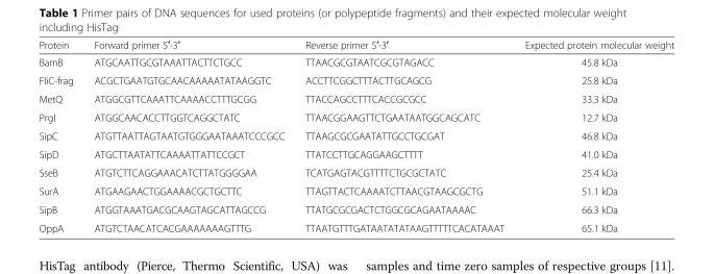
<table><thead><tr><td>Protein</td><td>Forward primer 5′-3′</td><td>Reverse primer 5′-3′</td><td>Expected protein molecular weight</td></tr></thead><tbody><tr><td>BamB</td><td>ATGCAATTGCGTAAATTACTTCTGCC</td><td>TTAACGCGTAATCGCGTAGACC</td><td>45.8 kDa</td></tr><tr><td>FliC-frag</td><td>ACGCTGAATGTGCAACAAAAATATAAGGTC</td><td>ACCTTCGGCTTTACTTGCAGCG</td><td>25.8 kDa</td></tr><tr><td>MetQ</td><td>ATGGCGTTCAAATTCAAAACCTTTGCGG</td><td>TTACCAGCCTTTCACCGCGCC</td><td>33.3 kDa</td></tr><tr><td>PrgI</td><td>ATGGCAACACCTTGGTCAGGCTATC</td><td>TTAACGGAAGTTCTGAATAATGGCAGCATC</td><td>12.7 kDa</td></tr><tr><td>SipC</td><td>ATGTTAATTAGTAATGTGGGAATAAATCCCGCC</td><td>TTAAGCGCGAATATTGCCTGCGAT</td><td>46.8 kDa</td></tr><tr><td>SipD</td><td>ATGCTTAATATTCAAAATTATTCCGCT</td><td>TTATCCTTGCAGGAAGCTTTT</td><td>41.0 kDa</td></tr><tr><td>SseB</td><td>ATGTCTTCAGGAAACATCTTATGGGGAA</td><td>TCATGAGTACGTTTTCTGCGCTATC</td><td>25.4 kDa</td></tr><tr><td>SurA</td><td>ATGAAGAACTGGAAAACGCTGCTTC</td><td>TTAGTTACTCAAAATCTTAACGTAAGCGCTG</td><td>51.1 kDa</td></tr><tr><td>SipB</td><td>ATGGTAAATGACGCAAGTAGCATTAGCCG</td><td>TTATGCGCGACTCTGGCGCAGAATAAAAC</td><td>66.3 kDa</td></tr><tr><td>OppA</td><td>ATGTCTAACATCACGAAAAAAAGTTTG</td><td>TTAATGTTTGATAATATATAAGTTTTTCACATAAAT</td><td>65.1 kDa</td></tr></tbody></table>